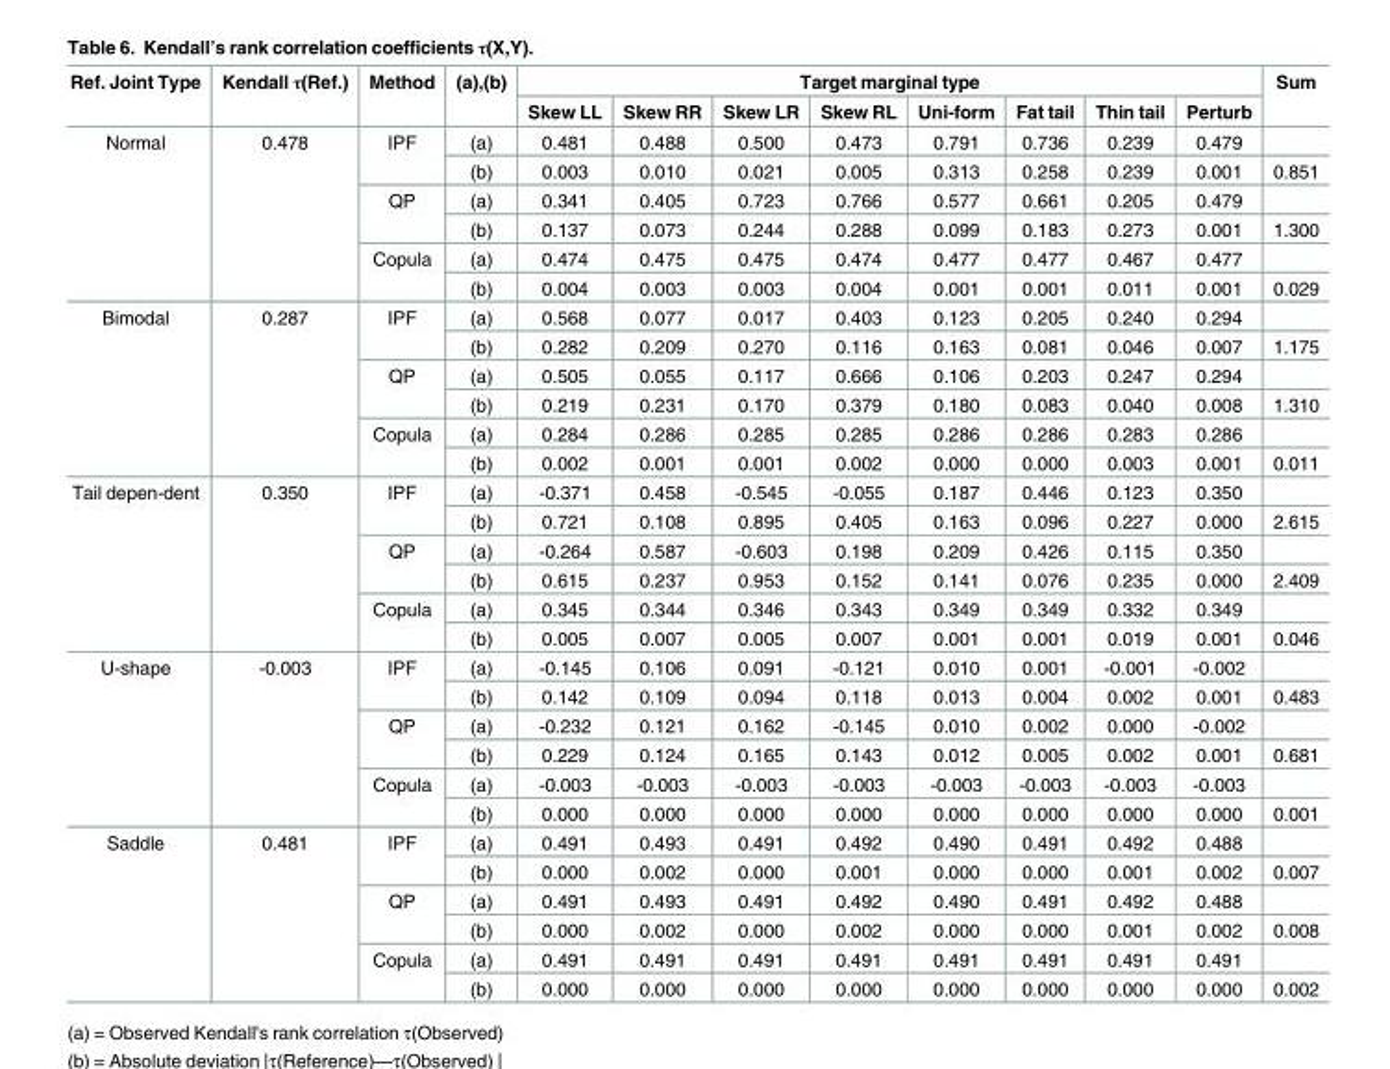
<table><thead><tr><td rowspan="2">Ref. Joint Type</td><td rowspan="2">Kendall τ(Ref.)</td><td rowspan="2">Method</td><td rowspan="2">(a),(b)</td><td colspan="8">Target marginal type</td><td rowspan="2">Sum</td></tr><tr><td>Skew LL</td><td>Skew RR</td><td>Skew LR</td><td>Skew RL</td><td>Uni-form</td><td>Fat tail</td><td>Thin tail</td><td>Perturb</td></tr></thead><tbody><tr><td rowspan="6">Normal</td><td rowspan="6">0.478</td><td rowspan="2">IPF</td><td>(a)</td><td>0.481</td><td>0.488</td><td>0.500</td><td>0.473</td><td>0.791</td><td>0.736</td><td>0.239</td><td>0.479</td><td></td></tr><tr><td>(b)</td><td>0.003</td><td>0.010</td><td>0.021</td><td>0.005</td><td>0.313</td><td>0.258</td><td>0.239</td><td>0.001</td><td>0.851</td></tr><tr><td rowspan="2">QP</td><td>(a)</td><td>0.341</td><td>0.405</td><td>0.723</td><td>0.766</td><td>0.577</td><td>0.661</td><td>0.205</td><td>0.479</td><td></td></tr><tr><td>(b)</td><td>0.137</td><td>0.073</td><td>0.244</td><td>0.288</td><td>0.099</td><td>0.183</td><td>0.273</td><td>0.001</td><td>1.300</td></tr><tr><td rowspan="2">Copula</td><td>(a)</td><td>0.474</td><td>0.475</td><td>0.475</td><td>0.474</td><td>0.477</td><td>0.477</td><td>0.467</td><td>0.477</td><td></td></tr><tr><td>(b)</td><td>0.004</td><td>0.003</td><td>0.003</td><td>0.004</td><td>0.001</td><td>0.001</td><td>0.011</td><td>0.001</td><td>0.029</td></tr><tr><td rowspan="6">Bimodal</td><td rowspan="6">0.287</td><td rowspan="2">IPF</td><td>(a)</td><td>0.568</td><td>0.077</td><td>0.017</td><td>0.403</td><td>0.123</td><td>0.205</td><td>0.240</td><td>0.294</td><td></td></tr><tr><td>(b)</td><td>0.282</td><td>0.209</td><td>0.270</td><td>0.116</td><td>0.163</td><td>0.081</td><td>0.046</td><td>0.007</td><td>1.175</td></tr><tr><td rowspan="2">QP</td><td>(a)</td><td>0.505</td><td>0.055</td><td>0.117</td><td>0.666</td><td>0.106</td><td>0.203</td><td>0.247</td><td>0.294</td><td></td></tr><tr><td>(b)</td><td>0.219</td><td>0.231</td><td>0.170</td><td>0.379</td><td>0.180</td><td>0.083</td><td>0.040</td><td>0.008</td><td>1.310</td></tr><tr><td rowspan="2">Copula</td><td>(a)</td><td>0.284</td><td>0.286</td><td>0.285</td><td>0.285</td><td>0.286</td><td>0.286</td><td>0.283</td><td>0.286</td><td></td></tr><tr><td>(b)</td><td>0.002</td><td>0.001</td><td>0.001</td><td>0.002</td><td>0.000</td><td>0.000</td><td>0.003</td><td>0.001</td><td>0.011</td></tr><tr><td rowspan="6">Tail depen-dent</td><td rowspan="6">0.350</td><td rowspan="2">IPF</td><td>(a)</td><td>-0.371</td><td>0.458</td><td>-0.545</td><td>-0.055</td><td>0.187</td><td>0.446</td><td>0.123</td><td>0.350</td><td></td></tr><tr><td>(b)</td><td>0.721</td><td>0.108</td><td>0.895</td><td>0.405</td><td>0.163</td><td>0.096</td><td>0.227</td><td>0.000</td><td>2.615</td></tr><tr><td rowspan="2">QP</td><td>(a)</td><td>-0.264</td><td>0.587</td><td>-0.603</td><td>0.198</td><td>0.209</td><td>0.426</td><td>0.115</td><td>0.350</td><td></td></tr><tr><td>(b)</td><td>0.615</td><td>0.237</td><td>0.953</td><td>0.152</td><td>0.141</td><td>0.076</td><td>0.235</td><td>0.000</td><td>2.409</td></tr><tr><td rowspan="2">Copula</td><td>(a)</td><td>0.345</td><td>0.344</td><td>0.346</td><td>0.343</td><td>0.349</td><td>0.349</td><td>0.332</td><td>0.349</td><td></td></tr><tr><td>(b)</td><td>0.005</td><td>0.007</td><td>0.005</td><td>0.007</td><td>0.001</td><td>0.001</td><td>0.019</td><td>0.001</td><td>0.046</td></tr><tr><td rowspan="6">U-shape</td><td rowspan="6">-0.003</td><td rowspan="2">IPF</td><td>(a)</td><td>-0.145</td><td>0.106</td><td>0.091</td><td>-0.121</td><td>0.010</td><td>0.001</td><td>-0.001</td><td>-0.002</td><td></td></tr><tr><td>(b)</td><td>0.142</td><td>0.109</td><td>0.094</td><td>0.118</td><td>0.013</td><td>0.004</td><td>0.002</td><td>0.001</td><td>0.483</td></tr><tr><td rowspan="2">QP</td><td>(a)</td><td>-0.232</td><td>0.121</td><td>0.162</td><td>-0.145</td><td>0.010</td><td>0.002</td><td>0.000</td><td>-0.002</td><td></td></tr><tr><td>(b)</td><td>0.229</td><td>0.124</td><td>0.165</td><td>0.143</td><td>0.012</td><td>0.005</td><td>0.002</td><td>0.001</td><td>0.681</td></tr><tr><td rowspan="2">Copula</td><td>(a)</td><td>-0.003</td><td>-0.003</td><td>-0.003</td><td>-0.003</td><td>-0.003</td><td>-0.003</td><td>-0.003</td><td>-0.003</td><td></td></tr><tr><td>(b)</td><td>0.000</td><td>0.000</td><td>0.000</td><td>0.000</td><td>0.000</td><td>0.000</td><td>0.000</td><td>0.000</td><td>0.001</td></tr><tr><td rowspan="6">Saddle</td><td rowspan="6">0.481</td><td rowspan="2">IPF</td><td>(a)</td><td>0.491</td><td>0.493</td><td>0.491</td><td>0.492</td><td>0.490</td><td>0.491</td><td>0.492</td><td>0.488</td><td></td></tr><tr><td>(b)</td><td>0.000</td><td>0.002</td><td>0.000</td><td>0.001</td><td>0.000</td><td>0.000</td><td>0.001</td><td>0.002</td><td>0.007</td></tr><tr><td rowspan="2">QP</td><td>(a)</td><td>0.491</td><td>0.493</td><td>0.491</td><td>0.492</td><td>0.490</td><td>0.491</td><td>0.492</td><td>0.488</td><td></td></tr><tr><td>(b)</td><td>0.000</td><td>0.002</td><td>0.000</td><td>0.002</td><td>0.000</td><td>0.000</td><td>0.001</td><td>0.002</td><td>0.008</td></tr><tr><td rowspan="2">Copula</td><td>(a)</td><td>0.491</td><td>0.491</td><td>0.491</td><td>0.491</td><td>0.491</td><td>0.491</td><td>0.491</td><td>0.491</td><td></td></tr><tr><td>(b)</td><td>0.000</td><td>0.000</td><td>0.000</td><td>0.000</td><td>0.000</td><td>0.000</td><td>0.000</td><td>0.000</td><td>0.002</td></tr></tbody></table>